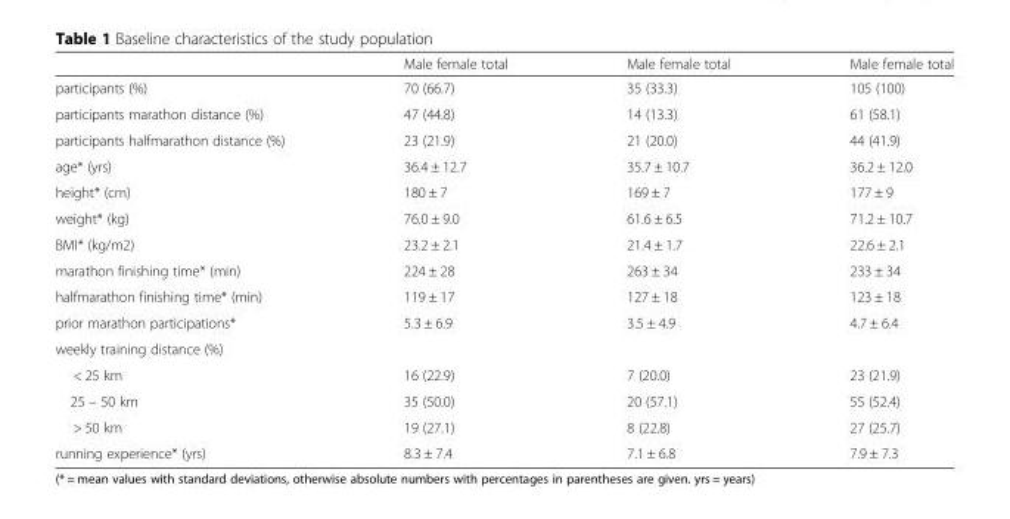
<table><thead><tr><td></td><td>Male female total</td><td>Male female total</td><td>Male female total</td></tr></thead><tbody><tr><td>participants (%)</td><td>70 (66.7)</td><td>35 (33.3)</td><td>105 (100)</td></tr><tr><td>participants marathon distance (%)</td><td>47 (44.8)</td><td>14 (13.3)</td><td>61 (58.1)</td></tr><tr><td>participants halfmarathon distance (%)</td><td>23 (21.9)</td><td>21 (20.0)</td><td>44 (41.9)</td></tr><tr><td>age* (yrs)</td><td>36.4 ± 12.7</td><td>35.7 ± 10.7</td><td>36.2 ± 12.0</td></tr><tr><td>height* (cm)</td><td>180 ± 7</td><td>169 ± 7</td><td>177 ± 9</td></tr><tr><td>weight* (kg)</td><td>76.0 ± 9.0</td><td>61.6 ± 6.5</td><td>71.2 ± 10.7</td></tr><tr><td>BMI* (kg/m2)</td><td>23.2 ± 2.1</td><td>21.4 ± 1.7</td><td>22.6 ± 2.1</td></tr><tr><td>marathon finishing time* (min)</td><td>224 ± 28</td><td>263 ± 34</td><td>233 ± 34</td></tr><tr><td>halfmarathon finishing time* (min)</td><td>119 ± 17</td><td>127 ± 18</td><td>123 ± 18</td></tr><tr><td>prior marathon participations*</td><td>5.3 ± 6.9</td><td>3.5 ± 4.9</td><td>4.7 ± 6.4</td></tr><tr><td colspan="4">weekly training distance (%)</td></tr><tr><td>&lt; 25 km</td><td>16 (22.9)</td><td>7 (20.0)</td><td>23 (21.9)</td></tr><tr><td>25 – 50 km</td><td>35 (50.0)</td><td>20 (57.1)</td><td>55 (52.4)</td></tr><tr><td>&gt; 50 km</td><td>19 (27.1)</td><td>8 (22.8)</td><td>27 (25.7)</td></tr><tr><td>running experience* (yrs)</td><td>8.3 ± 7.4</td><td>7.1 ± 6.8</td><td>7.9 ± 7.3</td></tr></tbody></table>